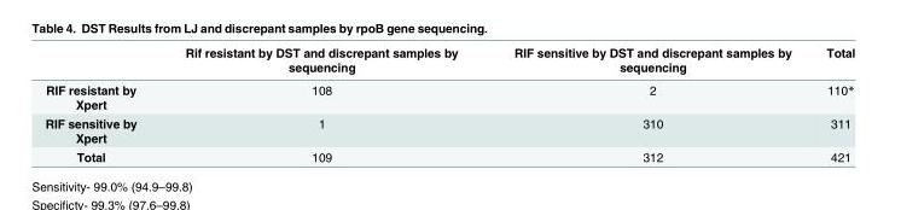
<table><thead><tr><td></td><td>Rif resistant by DST and discrepant samples by sequencing</td><td>RIF sensitive by DST and discrepant samples by sequencing</td><td>Total</td></tr></thead><tbody><tr><td>RIF resistant by Xpert</td><td>108</td><td>2</td><td>110*</td></tr><tr><td>RIF sensitive by Xpert</td><td>1</td><td>310</td><td>311</td></tr><tr><td>Total</td><td>109</td><td>312</td><td>421</td></tr></tbody></table>